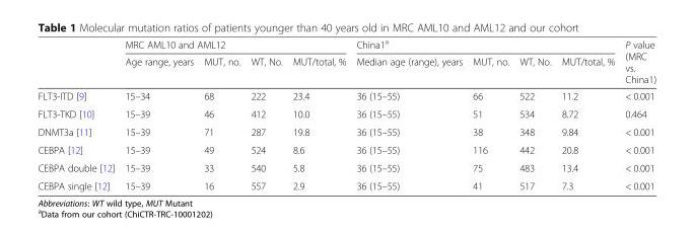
<table><thead><tr><td rowspan="2"></td><td colspan="4">MRC AML10 and AML12</td><td colspan="4">China1<sup>a</sup></td><td rowspan="2">P value (MRC vs. China1)</td></tr><tr><td>Age range, years</td><td>MUT, no.</td><td>WT, No.</td><td>MUT/total, %</td><td>Median age (range), years</td><td>MUT, no.</td><td>WT, No.</td><td>MUT/total, %</td></tr></thead><tbody><tr><td>FLT3-ITD [9]</td><td>15–34</td><td>68</td><td>222</td><td>23.4</td><td>36 (15–55)</td><td>66</td><td>522</td><td>11.2</td><td>&lt; 0.001</td></tr><tr><td>FLT3-TKD [10]</td><td>15–39</td><td>46</td><td>412</td><td>10.0</td><td>36 (15–55)</td><td>51</td><td>534</td><td>8.72</td><td>0.464</td></tr><tr><td>DNMT3a [11]</td><td>15–39</td><td>71</td><td>287</td><td>19.8</td><td>36 (15–55)</td><td>38</td><td>348</td><td>9.84</td><td>&lt; 0.001</td></tr><tr><td>CEBPA [12]</td><td>15–39</td><td>49</td><td>524</td><td>8.6</td><td>36 (15–55)</td><td>116</td><td>442</td><td>20.8</td><td>&lt; 0.001</td></tr><tr><td>CEBPA double [12]</td><td>15–39</td><td>33</td><td>540</td><td>5.8</td><td>36 (15–55)</td><td>75</td><td>483</td><td>13.4</td><td>&lt; 0.001</td></tr><tr><td>CEBPA single [12]</td><td>15–39</td><td>16</td><td>557</td><td>2.9</td><td>36 (15–55)</td><td>41</td><td>517</td><td>7.3</td><td>&lt; 0.001</td></tr></tbody></table>